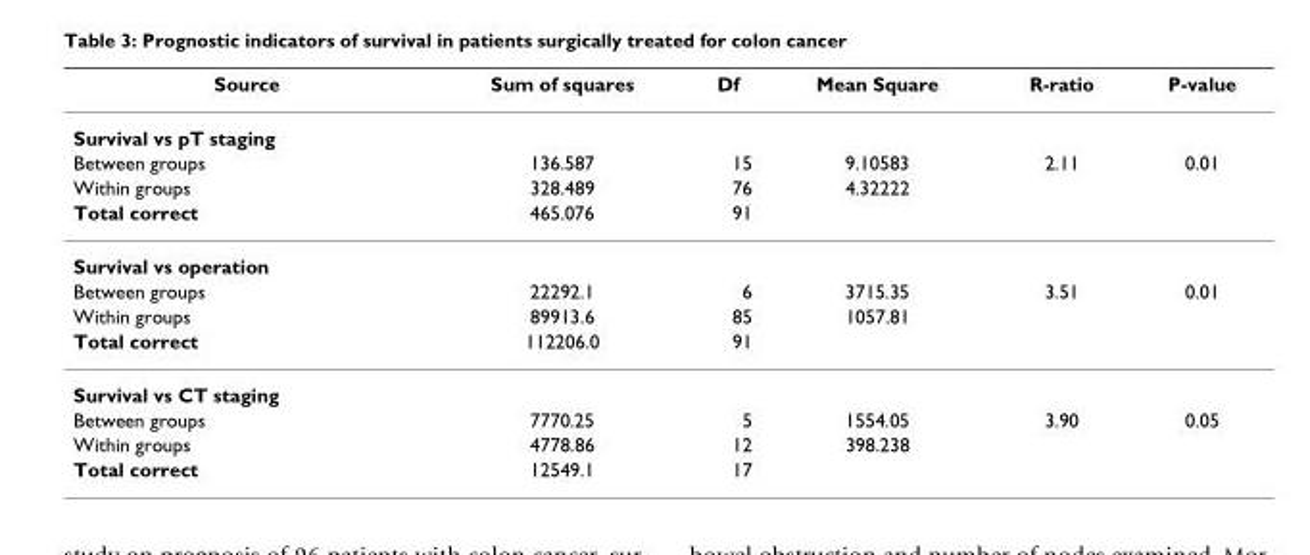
<table><thead><tr><td>Source</td><td>Sum of squares</td><td>Df</td><td>Mean Square</td><td>R-ratio</td><td>P-value</td></tr></thead><tbody><tr><td colspan="6">Survival vs pT staging</td></tr><tr><td>Between groups</td><td>136.587</td><td>15</td><td>9.10583</td><td>2.11</td><td>0.01</td></tr><tr><td>Within groups</td><td>328.489</td><td>76</td><td>4.32222</td><td></td><td></td></tr><tr><td>Total correct</td><td>465.076</td><td>91</td><td></td><td></td><td></td></tr><tr><td colspan="6">Survival vs operation</td></tr><tr><td>Between groups</td><td>22292.1</td><td>6</td><td>3715.35</td><td>3.51</td><td>0.01</td></tr><tr><td>Within groups</td><td>89913.6</td><td>85</td><td>1057.81</td><td></td><td></td></tr><tr><td>Total correct</td><td>112206.0</td><td>91</td><td></td><td></td><td></td></tr><tr><td colspan="6">Survival vs CT staging</td></tr><tr><td>Between groups</td><td>7770.25</td><td>5</td><td>1554.05</td><td>3.90</td><td>0.05</td></tr><tr><td>Within groups</td><td>4778.86</td><td>12</td><td>398.238</td><td></td><td></td></tr><tr><td>Total correct</td><td>12549.1</td><td>17</td><td></td><td></td><td></td></tr></tbody></table>